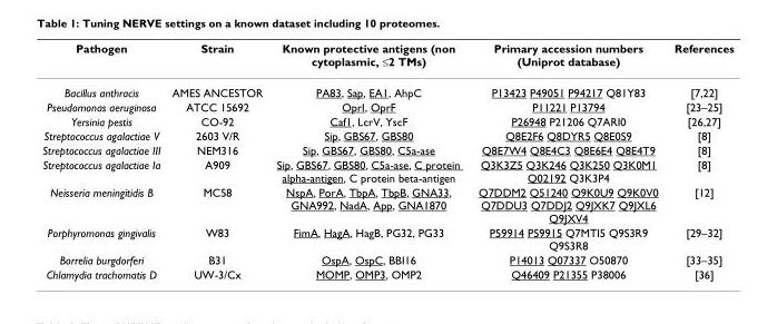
<table><thead><tr><td>Pathogen</td><td>Strain</td><td>Known protective antigens (non cytoplasmic, ≤2 TMs)</td><td>Primary accession numbers (Uniprot database)</td><td>References</td></tr></thead><tbody><tr><td>Bacillus anthracis</td><td>AMES ANCESTOR</td><td>PA83, Sap, EA1, AhpC</td><td>P13423 P49051 P94217 Q81Y83</td><td>[7,22]</td></tr><tr><td>Pseudomonas aeruginosa</td><td>ATCC 15692</td><td>OprI, OprF</td><td>P11221 P13794</td><td>[23–25]</td></tr><tr><td>Yersinia pestis</td><td>CO-92</td><td>Caf1, LcrV, YscF</td><td>P26948 P21206 Q7ARI0</td><td>[26,27]</td></tr><tr><td>Streptococcus agalactiae V</td><td>2603 V/R</td><td>Sip, GBS67, GBS80</td><td>Q8E2F6 Q8DYR5 Q8E0S9</td><td>[8]</td></tr><tr><td>Streptococcus agalactiae III</td><td>NEM316</td><td>Sip, GBS67, GBS80, C5a-ase</td><td>Q8E7W4 Q8E4C3 Q8E6E4 Q8E4T9</td><td>[8]</td></tr><tr><td>Streptococcus agalactiae Ia</td><td>A909</td><td>Sip, GBS67, GBS80, C5a-ase, C protein alpha-antigen, C protein beta-antigen</td><td>Q3K3Z5 Q3K246 Q3K250 Q3K0M1 Q02192 Q3K3P4</td><td>[8]</td></tr><tr><td>Neisseria meningitidis B</td><td>MC58</td><td>NspA, PorA, TbpA, TbpB, GNA33, GNA992, NadA, App, GNA1870</td><td>Q7DDM2 Q51240 Q9K0U9 Q9K0V0 Q7DDU3 Q7DDJ2 Q9JXK7 Q9JXL6 Q9JXV4</td><td>[12]</td></tr><tr><td>Porphyromonas gingivalis</td><td>W83</td><td>FimA, HagA, HagB, PG32, PG33</td><td>P59914 P59915 Q7MTI5 Q9S3R9 Q9S3R8</td><td>[29–32]</td></tr><tr><td>Borrelia burgdorferi</td><td>B31</td><td>OspA, OspC, BBI16</td><td>P14013 Q07337 O50870</td><td>[33–35]</td></tr><tr><td>Chlamydia trachomatis D</td><td>UW-3/Cx</td><td>MOMP, OMP3, OMP2</td><td>Q46409 P21355 P38006</td><td>[36]</td></tr></tbody></table>